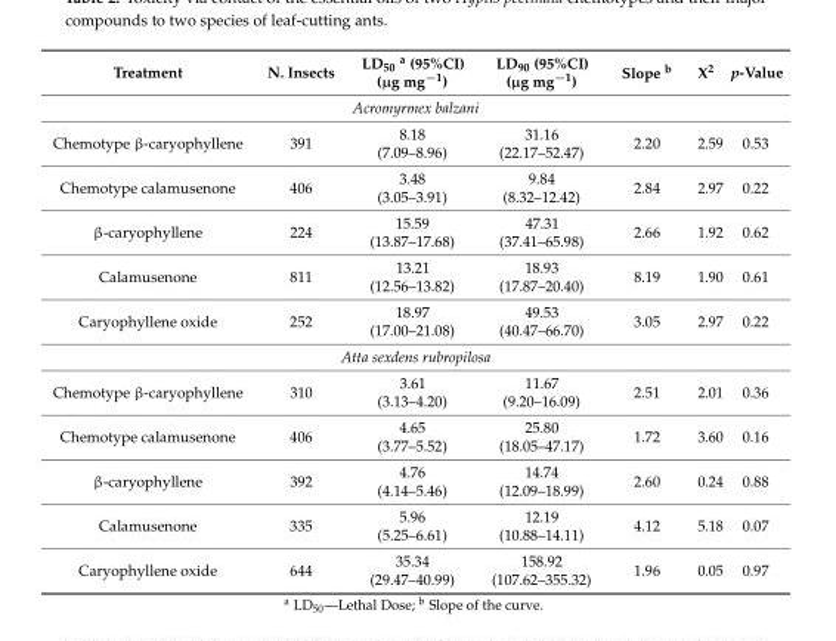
<table><thead><tr><td>Treatment</td><td>N. Insects</td><td>LD<sub>50</sub> <sup>a</sup> (95%CI) (µg mg<sup>−1</sup>)</td><td>LD<sub>90</sub> (95%CI) (µg mg<sup>−1</sup>)</td><td>Slope <sup>b</sup></td><td>X2</td><td>p-Value</td></tr></thead><tbody><tr><td colspan="7">Acromyrmex balzani</td></tr><tr><td>Chemotype β-caryophyllene</td><td>391</td><td>8.18 (7.09–8.96)</td><td>31.16 (22.17–52.47)</td><td>2.20</td><td>2.59</td><td>0.53</td></tr><tr><td>Chemotype calamusenone</td><td>406</td><td>3.48 (3.05–3.91)</td><td>9.84 (8.32–12.42)</td><td>2.84</td><td>2.97</td><td>0.22</td></tr><tr><td>β-caryophyllene</td><td>224</td><td>15.59 (13.87–17.68)</td><td>47.31 (37.41–65.98)</td><td>2.66</td><td>1.92</td><td>0.62</td></tr><tr><td>Calamusenone</td><td>811</td><td>13.21 (12.56–13.82)</td><td>18.93 (17.87–20.40)</td><td>8.19</td><td>1.90</td><td>0.61</td></tr><tr><td>Caryophyllene oxide</td><td>252</td><td>18.97 (17.00–21.08)</td><td>49.53 (40.47–66.70)</td><td>3.05</td><td>2.97</td><td>0.22</td></tr><tr><td colspan="7">Atta sexdens rubropilosa</td></tr><tr><td>Chemotype β-caryophyllene</td><td>310</td><td>3.61 (3.13–4.20)</td><td>11.67 (9.20–16.09)</td><td>2.51</td><td>2.01</td><td>0.36</td></tr><tr><td>Chemotype calamusenone</td><td>406</td><td>4.65 (3.77–5.52)</td><td>25.80 (18.05–47.17)</td><td>1.72</td><td>3.60</td><td>0.16</td></tr><tr><td>β-caryophyllene</td><td>392</td><td>4.76 (4.14–5.46)</td><td>14.74 (12.09–18.99)</td><td>2.60</td><td>0.24</td><td>0.88</td></tr><tr><td>Calamusenone</td><td>335</td><td>5.96 (5.25–6.61)</td><td>12.19 (10.88–14.11)</td><td>4.12</td><td>5.18</td><td>0.07</td></tr><tr><td>Caryophyllene oxide</td><td>644</td><td>35.34 (29.47–40.99)</td><td>158.92 (107.62–355.32)</td><td>1.96</td><td>0.05</td><td>0.97</td></tr></tbody></table>